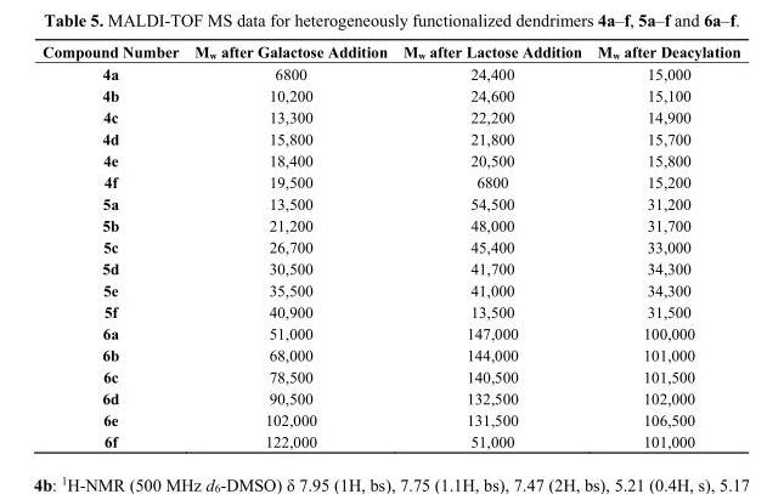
<table><thead><tr><td>Compound Number</td><td>M<sub>w</sub> after Galactose Addition</td><td>M<sub>w</sub> after Lactose Addition</td><td>M<sub>w</sub> after Deacylation</td></tr></thead><tbody><tr><td>4a</td><td>6800</td><td>24,400</td><td>15,000</td></tr><tr><td>4b</td><td>10,200</td><td>24,600</td><td>15,100</td></tr><tr><td>4c</td><td>13,300</td><td>22,200</td><td>14,900</td></tr><tr><td>4d</td><td>15,800</td><td>21,800</td><td>15,700</td></tr><tr><td>4e</td><td>18,400</td><td>20,500</td><td>15,800</td></tr><tr><td>4f</td><td>19,500</td><td>6800</td><td>15,200</td></tr><tr><td>5a</td><td>13,500</td><td>54,500</td><td>31,200</td></tr><tr><td>5b</td><td>21,200</td><td>48,000</td><td>31,700</td></tr><tr><td>5c</td><td>26,700</td><td>45,400</td><td>33,000</td></tr><tr><td>5d</td><td>30,500</td><td>41,700</td><td>34,300</td></tr><tr><td>5e</td><td>35,500</td><td>41,000</td><td>34,300</td></tr><tr><td>5f</td><td>40,900</td><td>13,500</td><td>31,500</td></tr><tr><td>6a</td><td>51,000</td><td>147,000</td><td>100,000</td></tr><tr><td>6b</td><td>68,000</td><td>144,000</td><td>101,000</td></tr><tr><td>6c</td><td>78,500</td><td>140,500</td><td>101,500</td></tr><tr><td>6d</td><td>90,500</td><td>132,500</td><td>102,000</td></tr><tr><td>6e</td><td>102,000</td><td>131,500</td><td>106,500</td></tr><tr><td>6f</td><td>122,000</td><td>51,000</td><td>101,000</td></tr></tbody></table>